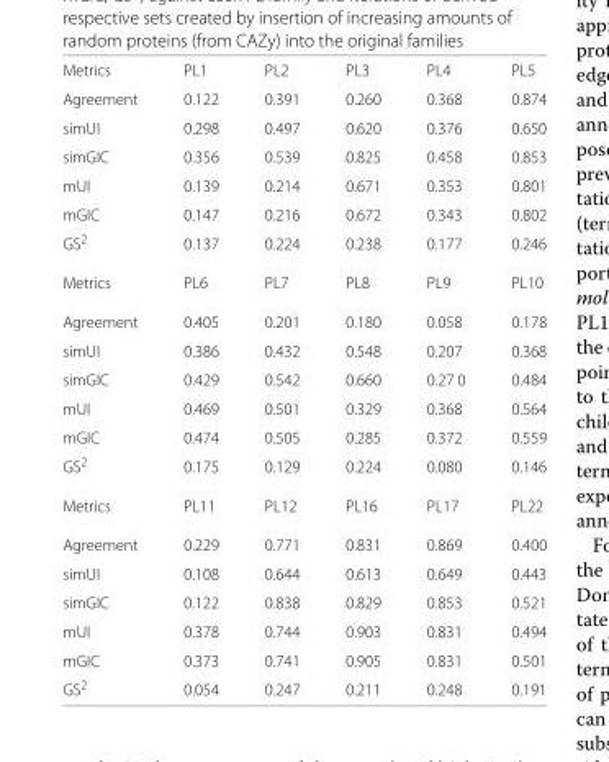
<table><tbody><tr><td>Metrics</td><td>PL1</td><td>PL2</td><td>PL3</td><td>PL4</td><td>PL5</td></tr><tr><td>Agreement</td><td>0.122</td><td>0.391</td><td>0.260</td><td>0.368</td><td>0.874</td></tr><tr><td>simUI</td><td>0.298</td><td>0.497</td><td>0.620</td><td>0.376</td><td>0.650</td></tr><tr><td>simGIC</td><td>0.356</td><td>0.539</td><td>0.825</td><td>0.458</td><td>0.853</td></tr><tr><td>mUI</td><td>0.139</td><td>0.214</td><td>0.671</td><td>0.353</td><td>0.801</td></tr><tr><td>mGIC</td><td>0.147</td><td>0.216</td><td>0.672</td><td>0.343</td><td>0.802</td></tr><tr><td>GS<sup>2</sup></td><td>0.137</td><td>0.224</td><td>0.238</td><td>0.177</td><td>0.246</td></tr><tr><td>Metrics</td><td>PL6</td><td>PL7</td><td>PL8</td><td>PL9</td><td>PL10</td></tr><tr><td>Agreement</td><td>0.405</td><td>0.201</td><td>0.180</td><td>0.058</td><td>0.178</td></tr><tr><td>simUI</td><td>0.386</td><td>0.432</td><td>0.548</td><td>0.207</td><td>0.368</td></tr><tr><td>simGIC</td><td>0.429</td><td>0.542</td><td>0.660</td><td>0.27 0</td><td>0.484</td></tr><tr><td>mUI</td><td>0.469</td><td>0.501</td><td>0.329</td><td>0.368</td><td>0.564</td></tr><tr><td>mGIC</td><td>0.474</td><td>0.505</td><td>0.285</td><td>0.372</td><td>0.559</td></tr><tr><td>GS<sup>2</sup></td><td>0.175</td><td>0.129</td><td>0.224</td><td>0.080</td><td>0.146</td></tr><tr><td>Metrics</td><td>PL11</td><td>PL12</td><td>PL16</td><td>PL17</td><td>PL22</td></tr><tr><td>Agreement</td><td>0.229</td><td>0.771</td><td>0.831</td><td>0.869</td><td>0.400</td></tr><tr><td>simUI</td><td>0.108</td><td>0.644</td><td>0.613</td><td>0.649</td><td>0.443</td></tr><tr><td>simGIC</td><td>0.122</td><td>0.838</td><td>0.829</td><td>0.853</td><td>0.521</td></tr><tr><td>mUI</td><td>0.378</td><td>0.744</td><td>0.903</td><td>0.831</td><td>0.494</td></tr><tr><td>mGIC</td><td>0.373</td><td>0.741</td><td>0.905</td><td>0.831</td><td>0.501</td></tr><tr><td>GS<sup>2</sup></td><td>0.054</td><td>0.247</td><td>0.211</td><td>0.248</td><td>0.191</td></tr></tbody></table>